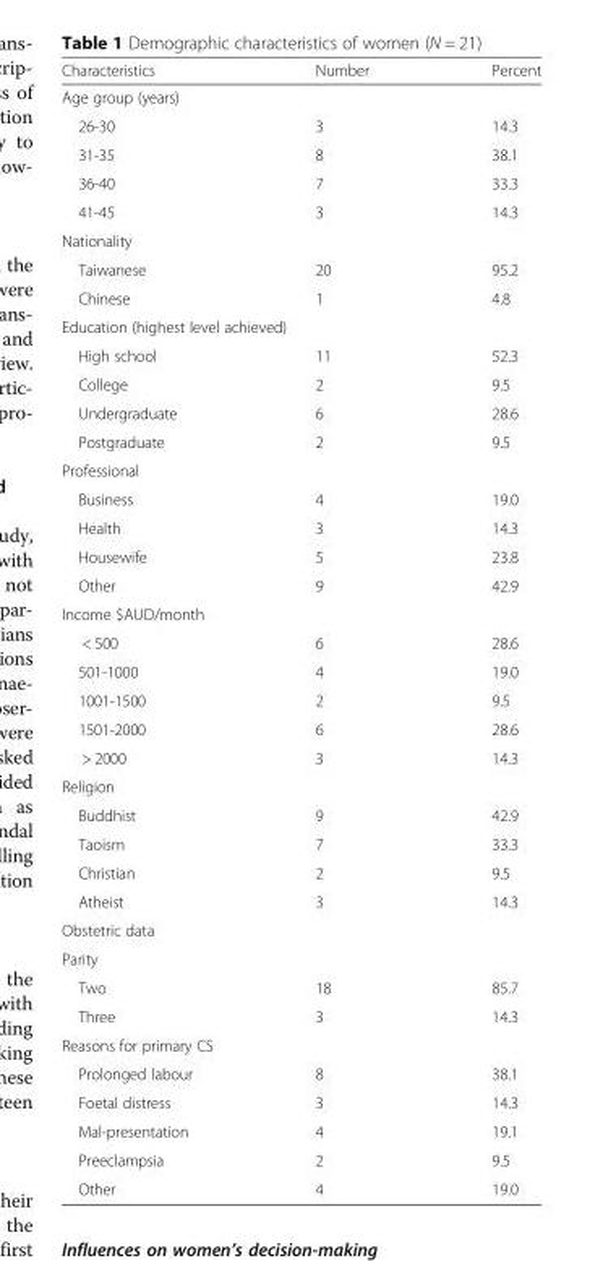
<table><thead><tr><td>Characteristics</td><td>Number</td><td>Percent</td></tr></thead><tbody><tr><td colspan="3">Age group (years)</td></tr><tr><td>26-30</td><td>3</td><td>14.3</td></tr><tr><td>31-35</td><td>8</td><td>38.1</td></tr><tr><td>36-40</td><td>7</td><td>33.3</td></tr><tr><td>41-45</td><td>3</td><td>14.3</td></tr><tr><td colspan="3">Nationality</td></tr><tr><td>Taiwanese</td><td>20</td><td>95.2</td></tr><tr><td>Chinese</td><td>1</td><td>4.8</td></tr><tr><td colspan="3">Education (highest level achieved)</td></tr><tr><td>High school</td><td>11</td><td>52.3</td></tr><tr><td>College</td><td>2</td><td>9.5</td></tr><tr><td>Undergraduate</td><td>6</td><td>28.6</td></tr><tr><td>Postgraduate</td><td>2</td><td>9.5</td></tr><tr><td colspan="3">Professional</td></tr><tr><td>Business</td><td>4</td><td>19.0</td></tr><tr><td>Health</td><td>3</td><td>14.3</td></tr><tr><td>Housewife</td><td>5</td><td>23.8</td></tr><tr><td>Other</td><td>9</td><td>42.9</td></tr><tr><td colspan="3">Income $AUD/month</td></tr><tr><td>&lt; 500</td><td>6</td><td>28.6</td></tr><tr><td>501-1000</td><td>4</td><td>19.0</td></tr><tr><td>1001-1500</td><td>2</td><td>9.5</td></tr><tr><td>1501-2000</td><td>6</td><td>28.6</td></tr><tr><td>&gt; 2000</td><td>3</td><td>14.3</td></tr><tr><td colspan="3">Religion</td></tr><tr><td>Buddhist</td><td>9</td><td>42.9</td></tr><tr><td>Taoism</td><td>7</td><td>33.3</td></tr><tr><td>Christian</td><td>2</td><td>9.5</td></tr><tr><td>Atheist</td><td>3</td><td>14.3</td></tr><tr><td colspan="3">Obstetric data</td></tr><tr><td colspan="3">Parity</td></tr><tr><td>Two</td><td>18</td><td>85.7</td></tr><tr><td>Three</td><td>3</td><td>14.3</td></tr><tr><td colspan="3">Reasons for primary CS</td></tr><tr><td>Prolonged labour</td><td>8</td><td>38.1</td></tr><tr><td>Foetal distress</td><td>3</td><td>14.3</td></tr><tr><td>Mal-presentation</td><td>4</td><td>19.1</td></tr><tr><td>Preeclampsia</td><td>2</td><td>9.5</td></tr><tr><td>Other</td><td>4</td><td>19.0</td></tr></tbody></table>